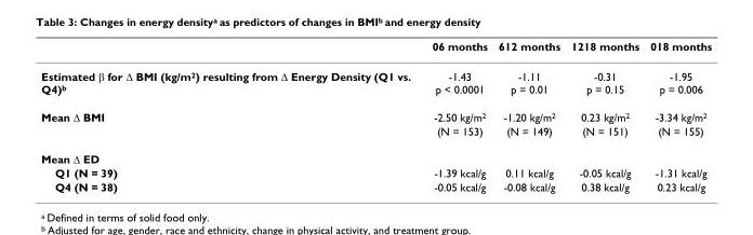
<table><thead><tr><td></td><td>06 months</td><td>612 months</td><td>1218 months</td><td>018 months</td></tr></thead><tbody><tr><td>Estimated β for Δ BMI (kg/m<sup>2</sup>) resulting from Δ Energy Density (Q1 vs. Q4)<sup>b</sup></td><td>-1.43 p &lt; 0.0001</td><td>-1.11 p = 0.01</td><td>-0.31 p = 0.15</td><td>-1.95 p = 0.006</td></tr><tr><td rowspan="2">Mean Δ BMI</td><td>-2.50 kg/m<sup>2</sup></td><td>-1.20 kg/m<sup>2</sup></td><td>0.23 kg/m<sup>2</sup></td><td>-3.34 kg/m<sup>2</sup></td></tr><tr><td>(N = 153)</td><td>(N = 149)</td><td>(N = 151)</td><td>(N = 155)</td></tr><tr><td colspan="5">Mean Δ ED</td></tr><tr><td>Q1 (N = 39)</td><td>-1.39 kcal/g</td><td>0.11 kcal/g</td><td>-0.05 kcal/g</td><td>-1.31 kcal/g</td></tr><tr><td>Q4 (N = 38)</td><td>-0.05 kcal/g</td><td>-0.08 kcal/g</td><td>0.38 kcal/g</td><td>0.23 kcal/g</td></tr></tbody></table>